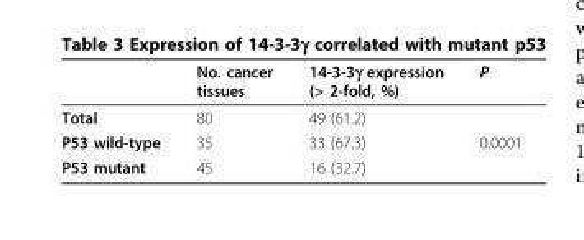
<table><thead><tr><td></td><td>No. cancer tissues</td><td>14-3-3γ expression (&gt; 2-fold, %)</td><td>P</td></tr></thead><tbody><tr><td>Total</td><td>80</td><td>49 (61.2)</td><td></td></tr><tr><td>P53 wild-type</td><td>35</td><td>33 (67.3)</td><td>0.0001</td></tr><tr><td>P53 mutant</td><td>45</td><td>16 (32.7)</td><td></td></tr></tbody></table>